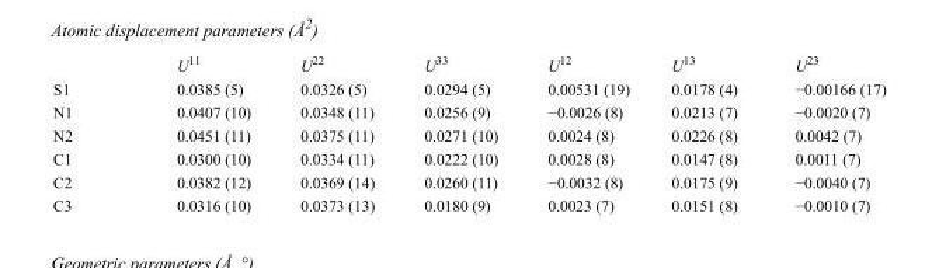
<table><thead><tr><td></td><td>U<sup>11</sup></td><td>U<sup>22</sup></td><td>U<sup>33</sup></td><td>U<sup>12</sup></td><td>U<sup>13</sup></td><td>U<sup>23</sup></td></tr></thead><tbody><tr><td>S1</td><td>0.0385 (5)</td><td>0.0326 (5)</td><td>0.0294 (5)</td><td>0.00531 (19)</td><td>0.0178 (4)</td><td>−0.00166 (17)</td></tr><tr><td>N1</td><td>0.0407 (10)</td><td>0.0348 (11)</td><td>0.0256 (9)</td><td>−0.0026 (8)</td><td>0.0213 (7)</td><td>−0.0020 (7)</td></tr><tr><td>N2</td><td>0.0451 (11)</td><td>0.0375 (11)</td><td>0.0271 (10)</td><td>0.0024 (8)</td><td>0.0226 (8)</td><td>0.0042 (7)</td></tr><tr><td>C1</td><td>0.0300 (10)</td><td>0.0334 (11)</td><td>0.0222 (10)</td><td>0.0028 (8)</td><td>0.0147 (8)</td><td>0.0011 (7)</td></tr><tr><td>C2</td><td>0.0382 (12)</td><td>0.0369 (14)</td><td>0.0260 (11)</td><td>−0.0032 (8)</td><td>0.0175 (9)</td><td>−0.0040 (7)</td></tr><tr><td>C3</td><td>0.0316 (10)</td><td>0.0373 (13)</td><td>0.0180 (9)</td><td>0.0023 (7)</td><td>0.0151 (8)</td><td>−0.0010 (7)</td></tr></tbody></table>